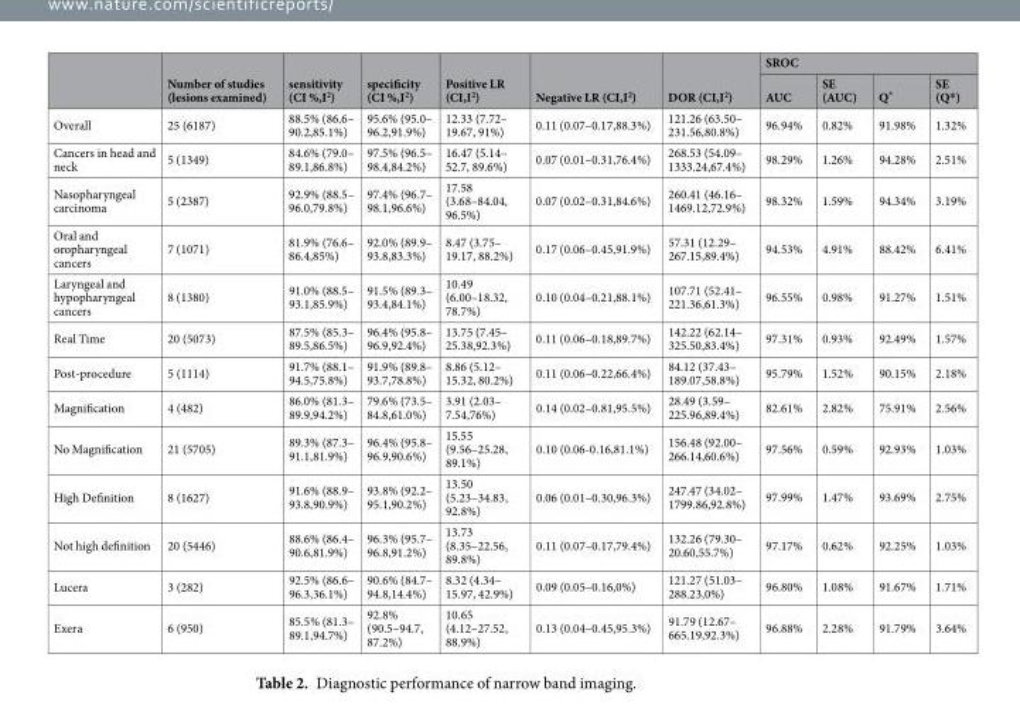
<table><thead><tr><td rowspan="2"></td><td rowspan="2">Number of studies (lesions examined)</td><td rowspan="2">sensitivity (CI %,I<sup>2</sup>)</td><td rowspan="2">specificity (CI %,I<sup>2</sup>)</td><td rowspan="2">Positive LR (CI,I<sup>2</sup>)</td><td rowspan="2">Negative LR (CI,I<sup>2</sup>)</td><td rowspan="2">DOR (CI,I<sup>2</sup>)</td><td colspan="4">SROC</td></tr><tr><td>AUC</td><td>SE (AUC)</td><td>Q*</td><td>SE (Q*)</td></tr></thead><tbody><tr><td>Overall</td><td>25 (6187)</td><td>88.5% (86.6– 90.2,85.1%)</td><td>95.6% (95.0– 96.2,91.9%)</td><td>12.33 (7.72– 19.67, 91%)</td><td>0.11 (0.07–0.17,88.3%)</td><td>121.26 (63.50– 231.56,80.8%)</td><td>96.94%</td><td>0.82%</td><td>91.98%</td><td>1.32%</td></tr><tr><td>Cancers in head and neck</td><td>5 (1349)</td><td>84.6% (79.0– 89.1,86.8%)</td><td>97.5% (96.5– 98.4,84.2%)</td><td>16.47 (5.14– 52.7, 89.6%)</td><td>0.07 (0.01–0.31,76.4%)</td><td>268.53 (54.09– 1333.24,67.4%)</td><td>98.29%</td><td>1.26%</td><td>94.28%</td><td>2.51%</td></tr><tr><td>Nasopharyngeal carcinoma</td><td>5 (2387)</td><td>92.9% (88.5– 96.0,79.8%)</td><td>97.4% (96.7– 98.1,96.6%)</td><td>17.58 (3.68–84.04, 96.5%)</td><td>0.07 (0.02–0.31,84.6%)</td><td>260.41 (46.16– 1469.12,72.9%)</td><td>98.32%</td><td>1.59%</td><td>94.34%</td><td>3.19%</td></tr><tr><td>Oral and oropharyngeal cancers</td><td>7 (1071)</td><td>81.9% (76.6– 86.4,85%)</td><td>92.0% (89.9– 93.8,83.3%)</td><td>8.47 (3.75– 19.17, 88.2%)</td><td>0.17 (0.06–0.45,91.9%)</td><td>57.31 (12.29– 267.15,89.4%)</td><td>94.53%</td><td>4.91%</td><td>88.42%</td><td>6.41%</td></tr><tr><td>Laryngeal and hypopharyngeal cancers</td><td>8 (1380)</td><td>91.0% (88.5– 93.1,85.9%)</td><td>91.5% (89.3– 93.4,84.1%)</td><td>10.49 (6.00–18.32, 78.7%)</td><td>0.10 (0.04–0.21,88.1%)</td><td>107.71 (52.41– 221.36,61.3%)</td><td>96.55%</td><td>0.98%</td><td>91.27%</td><td>1.51%</td></tr><tr><td>Real Time</td><td>20 (5073)</td><td>87.5% (85.3– 89.5,86.5%)</td><td>96.4% (95.8– 96.9,92.4%)</td><td>13.75 (7.45– 25.38,92.3%)</td><td>0.11 (0.06–0.18,89.7%)</td><td>142.22 (62.14– 325.50,83.4%)</td><td>97.31%</td><td>0.93%</td><td>92.49%</td><td>1.57%</td></tr><tr><td>Post-procedure</td><td>5 (1114)</td><td>91.7% (88.1– 94.5,75.8%)</td><td>91.9% (89.8– 93.7,78.8%)</td><td>8.86 (5.12– 15.32, 80.2%)</td><td>0.11 (0.06–0.22,66.4%)</td><td>84.12 (37.43– 189.07,58.8%)</td><td>95.79%</td><td>1.52%</td><td>90.15%</td><td>2.18%</td></tr><tr><td>Magnification</td><td>4 (482)</td><td>86.0% (81.3– 89.9,94.2%)</td><td>79.6% (73.5– 84.8,61.0%)</td><td>3.91 (2.03– 7.54,76%)</td><td>0.14 (0.02–0.81,95.5%)</td><td>28.49 (3.59– 225.96,89.4%)</td><td>82.61%</td><td>2.82%</td><td>75.91%</td><td>2.56%</td></tr><tr><td>No Magnification</td><td>21 (5705)</td><td>89.3% (87.3– 91.1,81.9%)</td><td>96.4% (95.8– 96.9,90.6%)</td><td>15.55 (9.56–25.28, 89.1%)</td><td>0.10 (0.06-0.16,81.1%)</td><td>156.48 (92.00– 266.14,60.6%)</td><td>97.56%</td><td>0.59%</td><td>92.93%</td><td>1.03%</td></tr><tr><td>High Definition</td><td>8 (1627)</td><td>91.6% (88.9– 93.8,90.9%)</td><td>93.8% (92.2– 95.1,90.2%)</td><td>13.50 (5.23–34.83, 92.8%)</td><td>0.06 (0.01–0.30,96.3%)</td><td>247.47 (34.02– 1799.86,92.8%)</td><td>97.99%</td><td>1.47%</td><td>93.69%</td><td>2.75%</td></tr><tr><td>Not high definition</td><td>20 (5446)</td><td>88.6% (86.4– 90.6,81.9%)</td><td>96.3% (95.7– 96.8,91.2%)</td><td>13.73 (8.35–22.56, 89.8%)</td><td>0.11 (0.07–0.17,79.4%)</td><td>132.26 (79.30– 20.60,55.7%)</td><td>97.17%</td><td>0.62%</td><td>92.25%</td><td>1.03%</td></tr><tr><td>Lucera</td><td>3 (282)</td><td>92.5% (86.6– 96.3,36.1%)</td><td>90.6% (84.7– 94.8,14.4%)</td><td>8.32 (4.34– 15.97, 42.9%)</td><td>0.09 (0.05–0.16,0%)</td><td>121.27 (51.03– 288.23,0%)</td><td>96.80%</td><td>1.08%</td><td>91.67%</td><td>1.71%</td></tr><tr><td>Exera</td><td>6 (950)</td><td>85.5% (81.3– 89.1,94.7%)</td><td>92.8% (90.5–94.7, 87.2%)</td><td>10.65 (4.12–27.52, 88.9%)</td><td>0.13 (0.04–0.45,95.3%)</td><td>91.79 (12.67– 665.19,92.3%)</td><td>96.88%</td><td>2.28%</td><td>91.79%</td><td>3.64%</td></tr></tbody></table>